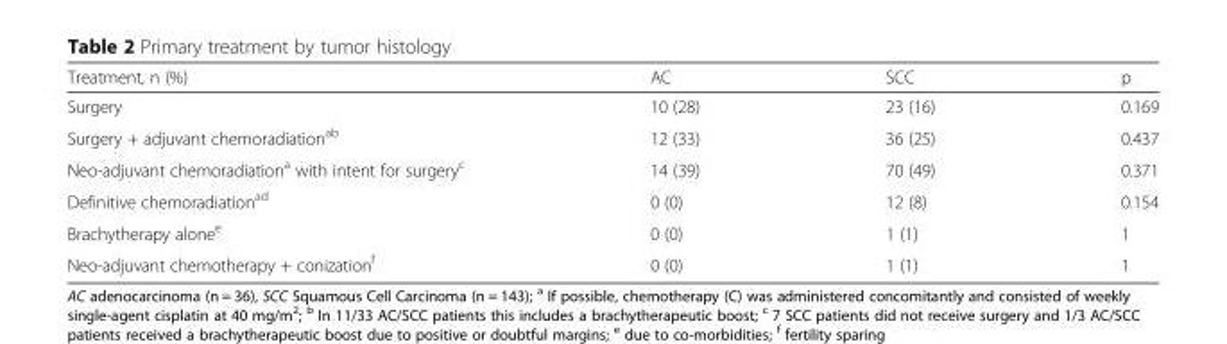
<table><thead><tr><td>Treatment, n (%)</td><td>AC</td><td>SCC</td><td>p</td></tr></thead><tbody><tr><td>Surgery</td><td>10 (28)</td><td>23 (16)</td><td>0.169</td></tr><tr><td>Surgery + adjuvant chemoradiation<sup>ab</sup></td><td>12 (33)</td><td>36 (25)</td><td>0.437</td></tr><tr><td>Neo-adjuvant chemoradiation<sup>a</sup> with intent for surgery<sup>c</sup></td><td>14 (39)</td><td>70 (49)</td><td>0.371</td></tr><tr><td>Definitive chemoradiation<sup>ad</sup></td><td>0 (0)</td><td>12 (8)</td><td>0.154</td></tr><tr><td>Brachytherapy alone<sup>e</sup></td><td>0 (0)</td><td>1 (1)</td><td>1</td></tr><tr><td>Neo-adjuvant chemotherapy + conization<sup>f</sup></td><td>0 (0)</td><td>1 (1)</td><td>1</td></tr></tbody></table>